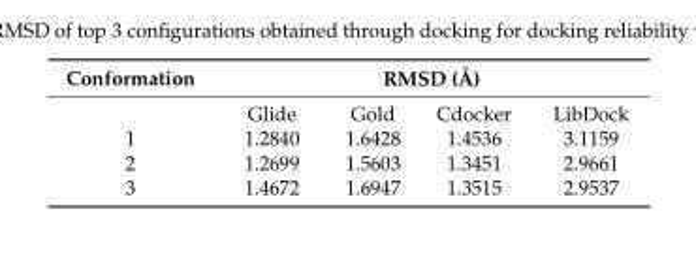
<table><thead><tr><td rowspan="2">Conformation</td><td colspan="4">RMSD (Å)</td></tr><tr><td>Glide</td><td>Gold</td><td>Cdocker</td><td>LibDock</td></tr></thead><tbody><tr><td>1</td><td>1.2840</td><td>1.6428</td><td>1.4536</td><td>3.1159</td></tr><tr><td>2</td><td>1.2699</td><td>1.5603</td><td>1.3451</td><td>2.9661</td></tr><tr><td>3</td><td>1.4672</td><td>1.6947</td><td>1.3515</td><td>2.9537</td></tr></tbody></table>